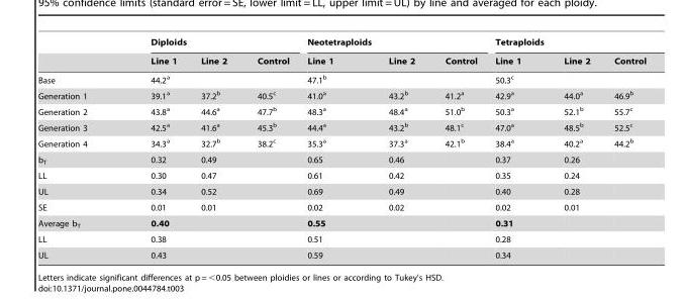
<table><thead><tr><td rowspan="2"></td><td colspan="3">Diploids</td><td colspan="3">Neotetraploids</td><td colspan="3">Tetraploids</td></tr><tr><td>Line 1</td><td>Line 2</td><td>Control</td><td>Line 1</td><td>Line 2</td><td>Control</td><td>Line 1</td><td>Line 2</td><td>Control</td></tr></thead><tbody><tr><td>Base</td><td>44.2<sup>a</sup></td><td></td><td></td><td>47.1<sup>b</sup></td><td></td><td></td><td>50.3<sup>c</sup></td><td></td><td></td></tr><tr><td>Generation 1</td><td>39.1<sup>a</sup></td><td>37.2<sup>b</sup></td><td>40.5<sup>c</sup></td><td>41.0<sup>a</sup></td><td>43.2<sup>b</sup></td><td>41.2<sup>a</sup></td><td>42.9<sup>a</sup></td><td>44.0<sup>a</sup></td><td>46.9<sup>b</sup></td></tr><tr><td>Generation 2</td><td>43.8<sup>a</sup></td><td>44.6<sup>a</sup></td><td>47.7<sup>b</sup></td><td>48.3<sup>a</sup></td><td>48.4<sup>a</sup></td><td>51.0<sup>b</sup></td><td>50.3<sup>a</sup></td><td>52.1<sup>b</sup></td><td>55.7<sup>c</sup></td></tr><tr><td>Generation 3</td><td>42.5<sup>a</sup></td><td>41.6<sup>a</sup></td><td>45.3<sup>b</sup></td><td>44.4<sup>a</sup></td><td>43.2<sup>b</sup></td><td>48.1<sup>c</sup></td><td>47.0<sup>a</sup></td><td>48.5<sup>b</sup></td><td>52.5<sup>c</sup></td></tr><tr><td>Generation 4</td><td>34.3<sup>a</sup></td><td>32.7<sup>b</sup></td><td>38.2<sup>c</sup></td><td>35.3<sup>a</sup></td><td>37.3<sup>a</sup></td><td>42.1<sup>b</sup></td><td>38.4<sup>a</sup></td><td>40.2<sup>a</sup></td><td>44.2<sup>b</sup></td></tr><tr><td>b<sub>T</sub></td><td>0.32</td><td>0.49</td><td></td><td>0.65</td><td>0.46</td><td></td><td>0.37</td><td>0.26</td><td></td></tr><tr><td>LL</td><td>0.30</td><td>0.47</td><td></td><td>0.61</td><td>0.42</td><td></td><td>0.35</td><td>0.24</td><td></td></tr><tr><td>UL</td><td>0.34</td><td>0.52</td><td></td><td>0.69</td><td>0.49</td><td></td><td>0.40</td><td>0.28</td><td></td></tr><tr><td>SE</td><td>0.01</td><td>0.01</td><td></td><td>0.02</td><td>0.02</td><td></td><td>0.02</td><td>0.01</td><td></td></tr><tr><td>Average b<sub>T</sub></td><td>0.40</td><td></td><td></td><td>0.55</td><td></td><td></td><td>0.31</td><td></td><td></td></tr><tr><td>LL</td><td>0.38</td><td></td><td></td><td>0.51</td><td></td><td></td><td>0.28</td><td></td><td></td></tr><tr><td>UL</td><td>0.43</td><td></td><td></td><td>0.59</td><td></td><td></td><td>0.34</td><td></td><td></td></tr></tbody></table>